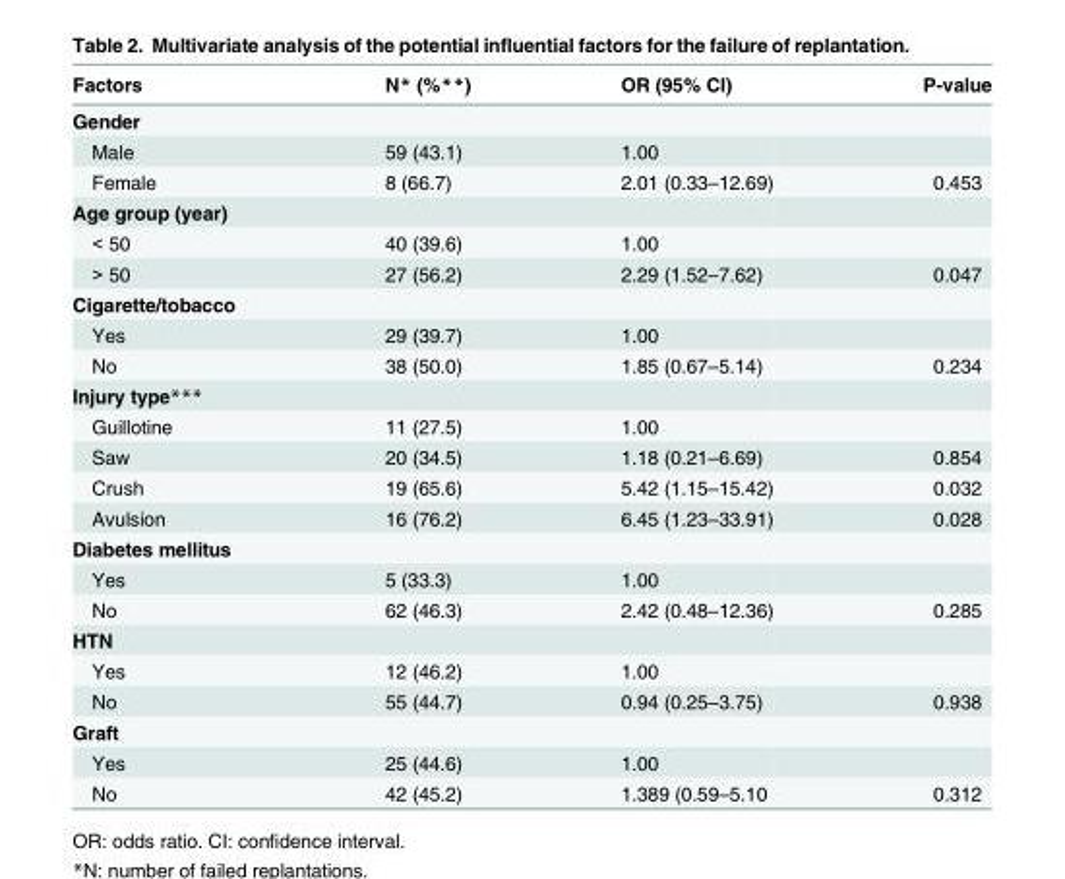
<table><thead><tr><td>Factors</td><td>N* (%**)</td><td>OR (95% CI)</td><td>P-value</td></tr></thead><tbody><tr><td colspan="4">Gender</td></tr><tr><td>Male</td><td>59 (43.1)</td><td>1.00</td><td></td></tr><tr><td>Female</td><td>8 (66.7)</td><td>2.01 (0.33–12.69)</td><td>0.453</td></tr><tr><td colspan="4">Age group (year)</td></tr><tr><td>&lt; 50</td><td>40 (39.6)</td><td>1.00</td><td></td></tr><tr><td>&gt; 50</td><td>27 (56.2)</td><td>2.29 (1.52–7.62)</td><td>0.047</td></tr><tr><td colspan="4">Cigarette/tobacco</td></tr><tr><td>Yes</td><td>29 (39.7)</td><td>1.00</td><td></td></tr><tr><td>No</td><td>38 (50.0)</td><td>1.85 (0.67–5.14)</td><td>0.234</td></tr><tr><td colspan="4">Injury type***</td></tr><tr><td>Guillotine</td><td>11 (27.5)</td><td>1.00</td><td></td></tr><tr><td>Saw</td><td>20 (34.5)</td><td>1.18 (0.21–6.69)</td><td>0.854</td></tr><tr><td>Crush</td><td>19 (65.6)</td><td>5.42 (1.15–15.42)</td><td>0.032</td></tr><tr><td>Avulsion</td><td>16 (76.2)</td><td>6.45 (1.23–33.91)</td><td>0.028</td></tr><tr><td colspan="4">Diabetes mellitus</td></tr><tr><td>Yes</td><td>5 (33.3)</td><td>1.00</td><td></td></tr><tr><td>No</td><td>62 (46.3)</td><td>2.42 (0.48–12.36)</td><td>0.285</td></tr><tr><td colspan="4">HTN</td></tr><tr><td>Yes</td><td>12 (46.2)</td><td>1.00</td><td></td></tr><tr><td>No</td><td>55 (44.7)</td><td>0.94 (0.25–3.75)</td><td>0.938</td></tr><tr><td colspan="4">Graft</td></tr><tr><td>Yes</td><td>25 (44.6)</td><td>1.00</td><td></td></tr><tr><td>No</td><td>42 (45.2)</td><td>1.389 (0.59–5.10</td><td>0.312</td></tr></tbody></table>